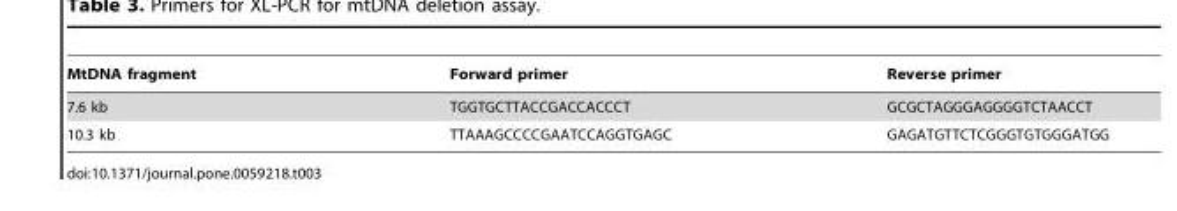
<table><thead><tr><td>MtDNA fragment</td><td>Forward primer</td><td>Reverse primer</td></tr></thead><tbody><tr><td>7.6 kb</td><td>TGGTGCTTACCGACCACCCT</td><td>GCGCTAGGGAGGGGTCTAACCT</td></tr><tr><td>10.3 kb</td><td>TTAAAGCCCCGAATCCAGGTGAGC</td><td>GAGATGTTCTCGGGTGTGGGATGG</td></tr></tbody></table>